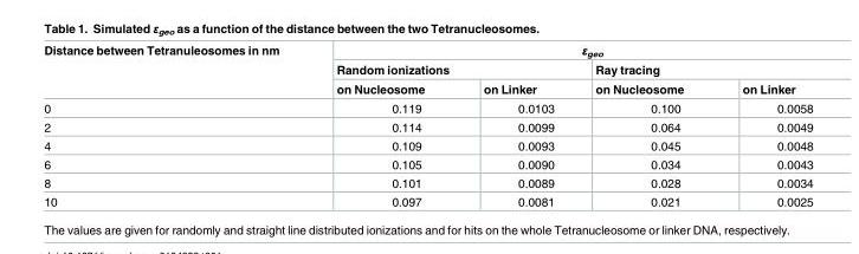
<table><thead><tr><td rowspan="3">Distance between Tetranuleosomes in nm</td><td colspan="4">ε<sub>geo</sub></td></tr><tr><td colspan="2">Random ionizations</td><td colspan="2">Ray tracing</td></tr><tr><td>on Nucleosome</td><td>on Linker</td><td>on Nucleosome</td><td>on Linker</td></tr></thead><tbody><tr><td>0</td><td>0.119</td><td>0.0103</td><td>0.100</td><td>0.0058</td></tr><tr><td>2</td><td>0.114</td><td>0.0099</td><td>0.064</td><td>0.0049</td></tr><tr><td>4</td><td>0.109</td><td>0.0093</td><td>0.045</td><td>0.0048</td></tr><tr><td>6</td><td>0.105</td><td>0.0090</td><td>0.034</td><td>0.0043</td></tr><tr><td>8</td><td>0.101</td><td>0.0089</td><td>0.028</td><td>0.0034</td></tr><tr><td>10</td><td>0.097</td><td>0.0081</td><td>0.021</td><td>0.0025</td></tr></tbody></table>